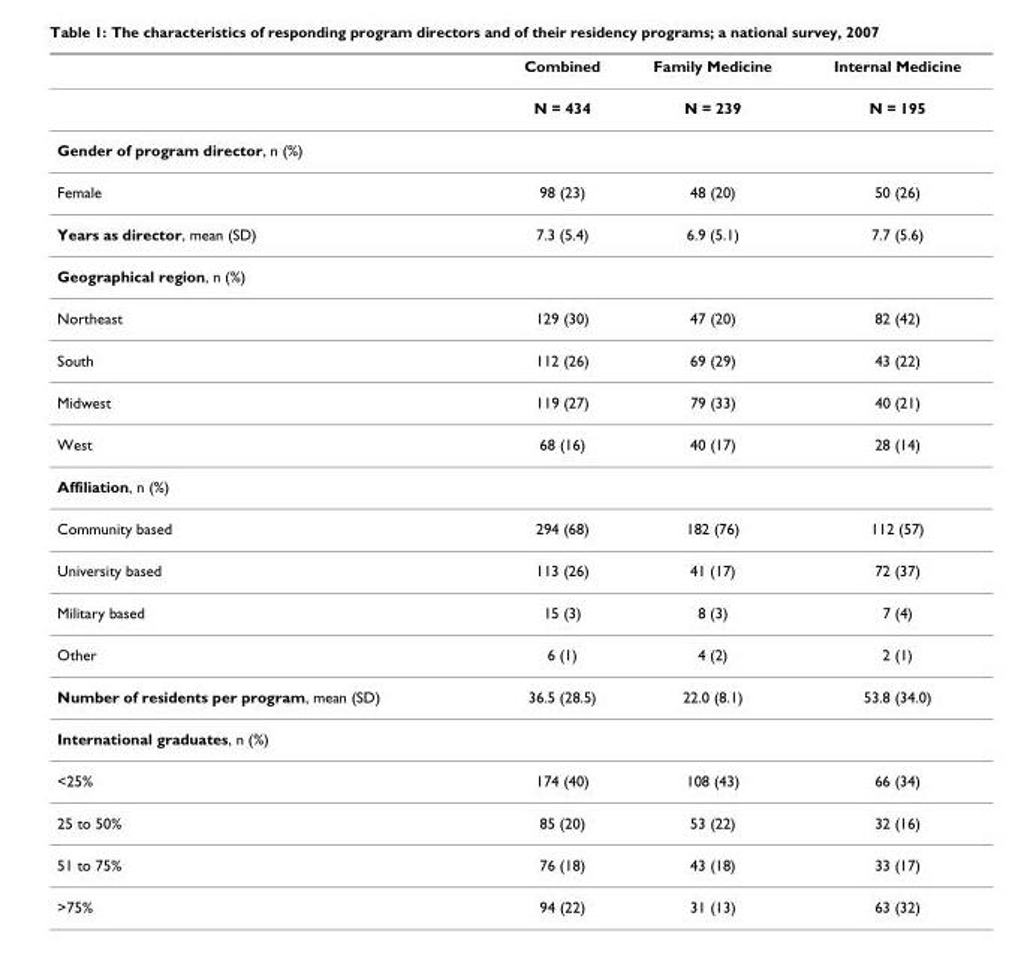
<table><thead><tr><td></td><td>Combined</td><td>Family Medicine</td><td>Internal Medicine</td></tr></thead><tbody><tr><td></td><td>N = 434</td><td>N = 239</td><td>N = 195</td></tr><tr><td colspan="4">Gender of program director, n (%)</td></tr><tr><td>Female</td><td>98 (23)</td><td>48 (20)</td><td>50 (26)</td></tr><tr><td>Years as director, mean (SD)</td><td>7.3 (5.4)</td><td>6.9 (5.1)</td><td>7.7 (5.6)</td></tr><tr><td colspan="4">Geographical region, n (%)</td></tr><tr><td>Northeast</td><td>129 (30)</td><td>47 (20)</td><td>82 (42)</td></tr><tr><td>South</td><td>112 (26)</td><td>69 (29)</td><td>43 (22)</td></tr><tr><td>Midwest</td><td>119 (27)</td><td>79 (33)</td><td>40 (21)</td></tr><tr><td>West</td><td>68 (16)</td><td>40 (17)</td><td>28 (14)</td></tr><tr><td colspan="4">Affiliation, n (%)</td></tr><tr><td>Community based</td><td>294 (68)</td><td>182 (76)</td><td>112 (57)</td></tr><tr><td>University based</td><td>113 (26)</td><td>41 (17)</td><td>72 (37)</td></tr><tr><td>Military based</td><td>15 (3)</td><td>8 (3)</td><td>7 (4)</td></tr><tr><td>Other</td><td>6 (1)</td><td>4 (2)</td><td>2 (1)</td></tr><tr><td>Number of residents per program, mean (SD)</td><td>36.5 (28.5)</td><td>22.0 (8.1)</td><td>53.8 (34.0)</td></tr><tr><td colspan="4">International graduates, n (%)</td></tr><tr><td>&lt;25%</td><td>174 (40)</td><td>108 (43)</td><td>66 (34)</td></tr><tr><td>25 to 50%</td><td>85 (20)</td><td>53 (22)</td><td>32 (16)</td></tr><tr><td>51 to 75%</td><td>76 (18)</td><td>43 (18)</td><td>33 (17)</td></tr><tr><td>&gt;75%</td><td>94 (22)</td><td>31 (13)</td><td>63 (32)</td></tr></tbody></table>